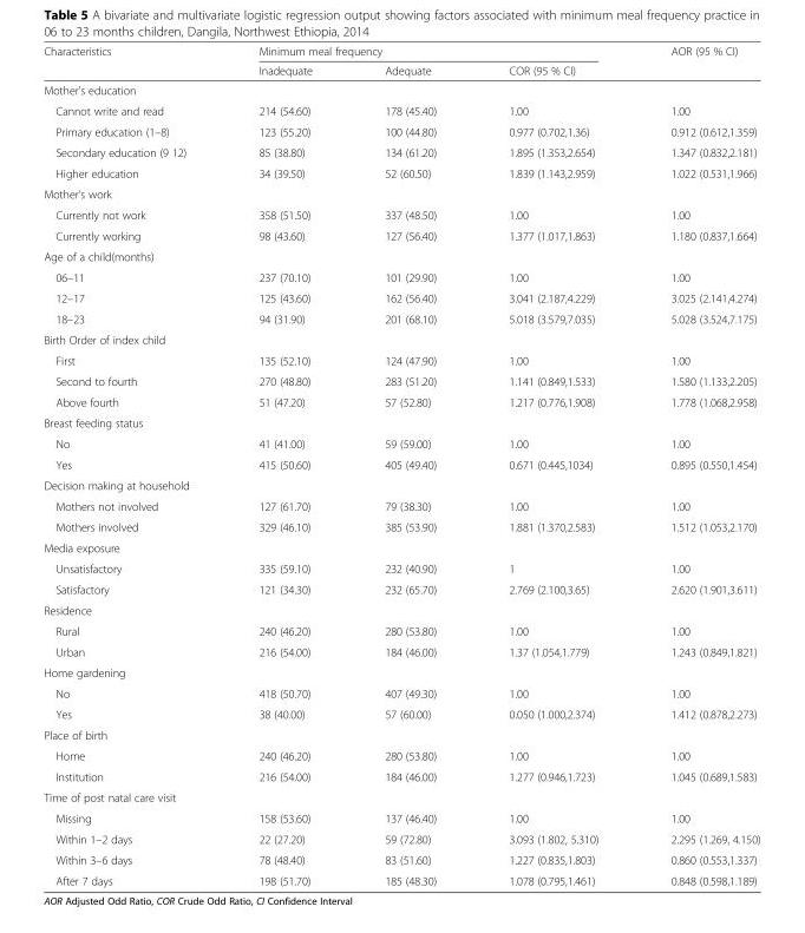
<table><thead><tr><td rowspan="2">Characteristics</td><td colspan="3">Minimum meal frequency</td><td rowspan="2">AOR (95 % CI)</td></tr><tr><td>Inadequate</td><td>Adequate</td><td>COR (95 % CI)</td></tr></thead><tbody><tr><td colspan="5">Mother&#x27;s education</td></tr><tr><td>Cannot write and read</td><td>214 (54.60)</td><td>178 (45.40)</td><td>1.00</td><td>1.00</td></tr><tr><td>Primary education (1–8)</td><td>123 (55.20)</td><td>100 (44.80)</td><td>0.977 (0.702,1.36)</td><td>0.912 (0.612,1.359)</td></tr><tr><td>Secondary education (9 12)</td><td>85 (38.80)</td><td>134 (61.20)</td><td>1.895 (1.353,2.654)</td><td>1.347 (0.832,2.181)</td></tr><tr><td>Higher education</td><td>34 (39.50)</td><td>52 (60.50)</td><td>1.839 (1.143,2.959)</td><td>1.022 (0.531,1.966)</td></tr><tr><td colspan="5">Mother’s work</td></tr><tr><td>Currently not work</td><td>358 (51.50)</td><td>337 (48.50)</td><td>1.00</td><td>1.00</td></tr><tr><td>Currently working</td><td>98 (43.60)</td><td>127 (56.40)</td><td>1.377 (1.017,1.863)</td><td>1.180 (0.837,1.664)</td></tr><tr><td colspan="5">Age of a child(months)</td></tr><tr><td>06–11</td><td>237 (70.10)</td><td>101 (29.90)</td><td>1.00</td><td>1.00</td></tr><tr><td>12–17</td><td>125 (43.60)</td><td>162 (56.40)</td><td>3.041 (2.187,4.229)</td><td>3.025 (2.141,4.274)</td></tr><tr><td>18–23</td><td>94 (31.90)</td><td>201 (68.10)</td><td>5.018 (3.579,7.035)</td><td>5.028 (3.524,7.175)</td></tr><tr><td colspan="5">Birth Order of index child</td></tr><tr><td>First</td><td>135 (52.10)</td><td>124 (47.90)</td><td>1.00</td><td>1.00</td></tr><tr><td>Second to fourth</td><td>270 (48.80)</td><td>283 (51.20)</td><td>1.141 (0.849,1.533)</td><td>1.580 (1.133,2.205)</td></tr><tr><td>Above fourth</td><td>51 (47.20)</td><td>57 (52.80)</td><td>1.217 (0.776,1.908)</td><td>1.778 (1.068,2.958)</td></tr><tr><td colspan="5">Breast feeding status</td></tr><tr><td>No</td><td>41 (41.00)</td><td>59 (59.00)</td><td>1.00</td><td>1.00</td></tr><tr><td>Yes</td><td>415 (50.60)</td><td>405 (49.40)</td><td>0.671 (0.445,1034)</td><td>0.895 (0.550,1.454)</td></tr><tr><td colspan="5">Decision making at household</td></tr><tr><td>Mothers not involved</td><td>127 (61.70)</td><td>79 (38.30)</td><td>1.00</td><td>1.00</td></tr><tr><td>Mothers involved</td><td>329 (46.10)</td><td>385 (53.90)</td><td>1.881 (1.370,2.583)</td><td>1.512 (1.053,2.170)</td></tr><tr><td colspan="5">Media exposure</td></tr><tr><td>Unsatisfactory</td><td>335 (59.10)</td><td>232 (40.90)</td><td>1</td><td>1.00</td></tr><tr><td>Satisfactory</td><td>121 (34.30)</td><td>232 (65.70)</td><td>2.769 (2.100,3.65)</td><td>2.620 (1.901,3.611)</td></tr><tr><td colspan="5">Residence</td></tr><tr><td>Rural</td><td>240 (46.20)</td><td>280 (53.80)</td><td>1.00</td><td>1.00</td></tr><tr><td>Urban</td><td>216 (54.00)</td><td>184 (46.00)</td><td>1.37 (1.054,1.779)</td><td>1.243 (0.849,1.821)</td></tr><tr><td colspan="5">Home gardening</td></tr><tr><td>No</td><td>418 (50.70)</td><td>407 (49.30)</td><td>1.00</td><td>1.00</td></tr><tr><td>Yes</td><td>38 (40.00)</td><td>57 (60.00)</td><td>0.050 (1.000,2.374)</td><td>1.412 (0.878,2.273)</td></tr><tr><td colspan="5">Place of birth</td></tr><tr><td>Home</td><td>240 (46.20)</td><td>280 (53.80)</td><td>1.00</td><td>1.00</td></tr><tr><td>Institution</td><td>216 (54.00)</td><td>184 (46.00)</td><td>1.277 (0.946,1.723)</td><td>1.045 (0.689,1.583)</td></tr><tr><td colspan="5">Time of post natal care visit</td></tr><tr><td>Missing</td><td>158 (53.60)</td><td>137 (46.40)</td><td>1.00</td><td>1.00</td></tr><tr><td>Within 1–2 days</td><td>22 (27.20)</td><td>59 (72.80)</td><td>3.093 (1.802, 5.310)</td><td>2.295 (1.269, 4.150)</td></tr><tr><td>Within 3–6 days</td><td>78 (48.40)</td><td>83 (51.60)</td><td>1.227 (0.835,1.803)</td><td>0.860 (0.553,1.337)</td></tr><tr><td>After 7 days</td><td>198 (51.70)</td><td>185 (48.30)</td><td>1.078 (0.795,1.461)</td><td>0.848 (0.598,1.189)</td></tr></tbody></table>